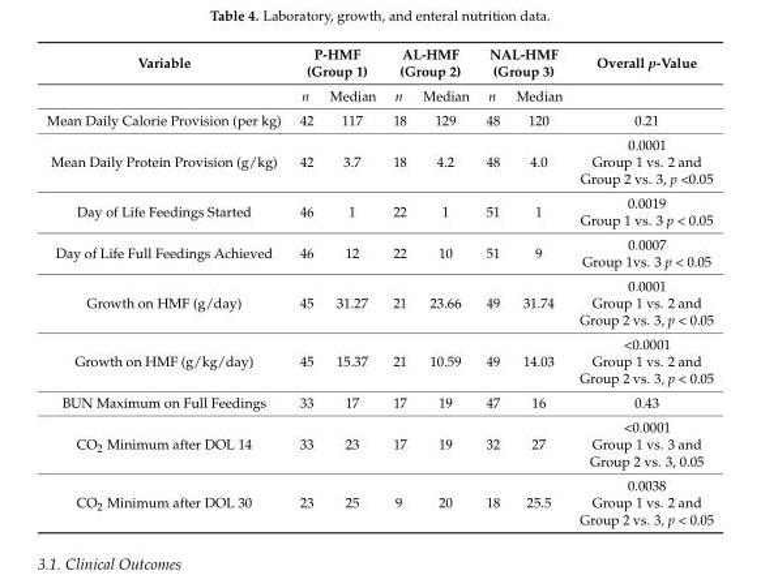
<table><thead><tr><td rowspan="2">Variable</td><td colspan="2">P-HMF (Group 1)</td><td colspan="2">AL-HMF (Group 2)</td><td colspan="2">NAL-HMF (Group 3)</td><td rowspan="2">Overall p-Value</td></tr><tr><td>n</td><td>Median</td><td>n</td><td>Median</td><td>n</td><td>Median</td></tr></thead><tbody><tr><td>Mean Daily Calorie Provision (per kg)</td><td>42</td><td>117</td><td>18</td><td>129</td><td>48</td><td>120</td><td>0.21</td></tr><tr><td>Mean Daily Protein Provision (g/kg)</td><td>42</td><td>3.7</td><td>18</td><td>4.2</td><td>48</td><td>4.0</td><td>0.0001 Group 1 vs. 2 and Group 2 vs. 3, p &lt;0.05</td></tr><tr><td>Day of Life Feedings Started</td><td>46</td><td>1</td><td>22</td><td>1</td><td>51</td><td>1</td><td>0.0019 Group 1 vs. 3 p &lt; 0.05</td></tr><tr><td>Day of Life Full Feedings Achieved</td><td>46</td><td>12</td><td>22</td><td>10</td><td>51</td><td>9</td><td>0.0007 Group 1vs. 3 p &lt; 0.05</td></tr><tr><td>Growth on HMF (g/day)</td><td>45</td><td>31.27</td><td>21</td><td>23.66</td><td>49</td><td>31.74</td><td>0.0001 Group 1 vs. 2 and Group 2 vs. 3, p &lt; 0.05</td></tr><tr><td>Growth on HMF (g/kg/day)</td><td>45</td><td>15.37</td><td>21</td><td>10.59</td><td>49</td><td>14.03</td><td>&lt;0.0001 Group 1 vs. 2 and Group 2 vs. 3, p &lt; 0.05</td></tr><tr><td>BUN Maximum on Full Feedings</td><td>33</td><td>17</td><td>17</td><td>19</td><td>47</td><td>16</td><td>0.43</td></tr><tr><td>CO<sub>2</sub> Minimum after DOL 14</td><td>33</td><td>23</td><td>17</td><td>19</td><td>32</td><td>27</td><td>&lt;0.0001 Group 1 vs. 3 and Group 2 vs. 3, 0.05</td></tr><tr><td>CO<sub>2</sub> Minimum after DOL 30</td><td>23</td><td>25</td><td>9</td><td>20</td><td>18</td><td>25.5</td><td>0.0038 Group 1 vs. 2 and Group 2 vs. 3, p &lt; 0.05</td></tr></tbody></table>